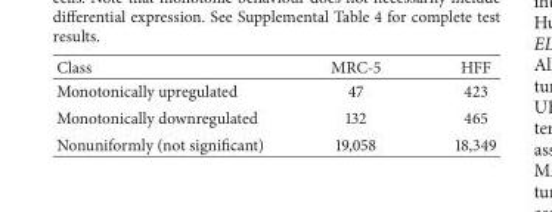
<table><thead><tr><td>Class</td><td>MRC-5</td><td>HFF</td></tr></thead><tbody><tr><td>Monotonically upregulated</td><td>47</td><td>423</td></tr><tr><td>Monotonically downregulated</td><td>132</td><td>465</td></tr><tr><td>Nonuniformly (not significant)</td><td>19,058</td><td>18,349</td></tr></tbody></table>